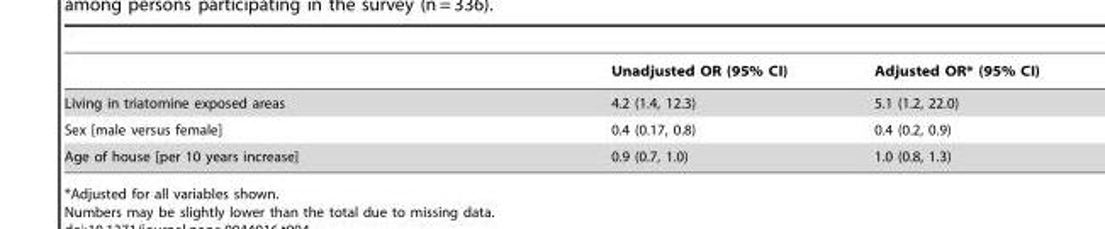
<table><thead><tr><td></td><td>Unadjusted OR (95% CI)</td><td>Adjusted OR* (95% CI)</td></tr></thead><tbody><tr><td>Living in triatomine exposed areas</td><td>4.2 (1.4, 12.3)</td><td>5.1 (1.2, 22.0)</td></tr><tr><td>Sex [male versus female]</td><td>0.4 (0.17, 0.8)</td><td>0.4 (0.2, 0.9)</td></tr><tr><td>Age of house [per 10 years increase]</td><td>0.9 (0.7, 1.0)</td><td>1.0 (0.8, 1.3)</td></tr></tbody></table>